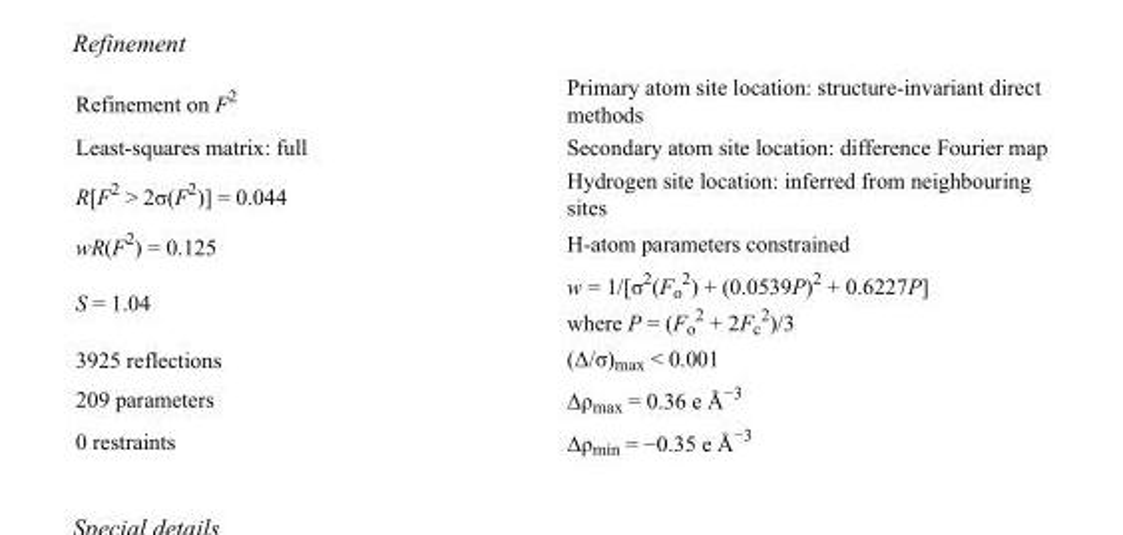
<table><tbody><tr><td>Refinement on F<sup>2</sup></td><td>Primary atom site location: structure-invariant direct methods</td></tr><tr><td>Least-squares matrix: full</td><td>Secondary atom site location: difference Fourier map</td></tr><tr><td>R[F<sup>2</sup> &gt; 2σ(F<sup>2</sup>)] = 0.044</td><td>Hydrogen site location: inferred from neighbouring sites</td></tr><tr><td>wR(F<sup>2</sup>) = 0.125</td><td>H-atom parameters constrained</td></tr><tr><td>S = 1.04</td><td>w = 1/[σ<sup>2</sup>(F<sub>o</sub> <sup>2</sup>) + (0.0539P)<sup>2</sup> + 0.6227P] where P = (F<sub>o</sub> <sup>2</sup> + 2F<sub>c</sub> <sup>2</sup>)/3</td></tr><tr><td>3925 reflections</td><td>(Δ/σ)<sub>max</sub> &lt; 0.001</td></tr><tr><td>209 parameters</td><td>Δρ<sub>max</sub> = 0.36 e Å<sup>−3</sup></td></tr><tr><td>0 restraints</td><td>Δρ<sub>min</sub> = −0.35 e Å<sup>−3</sup></td></tr></tbody></table>